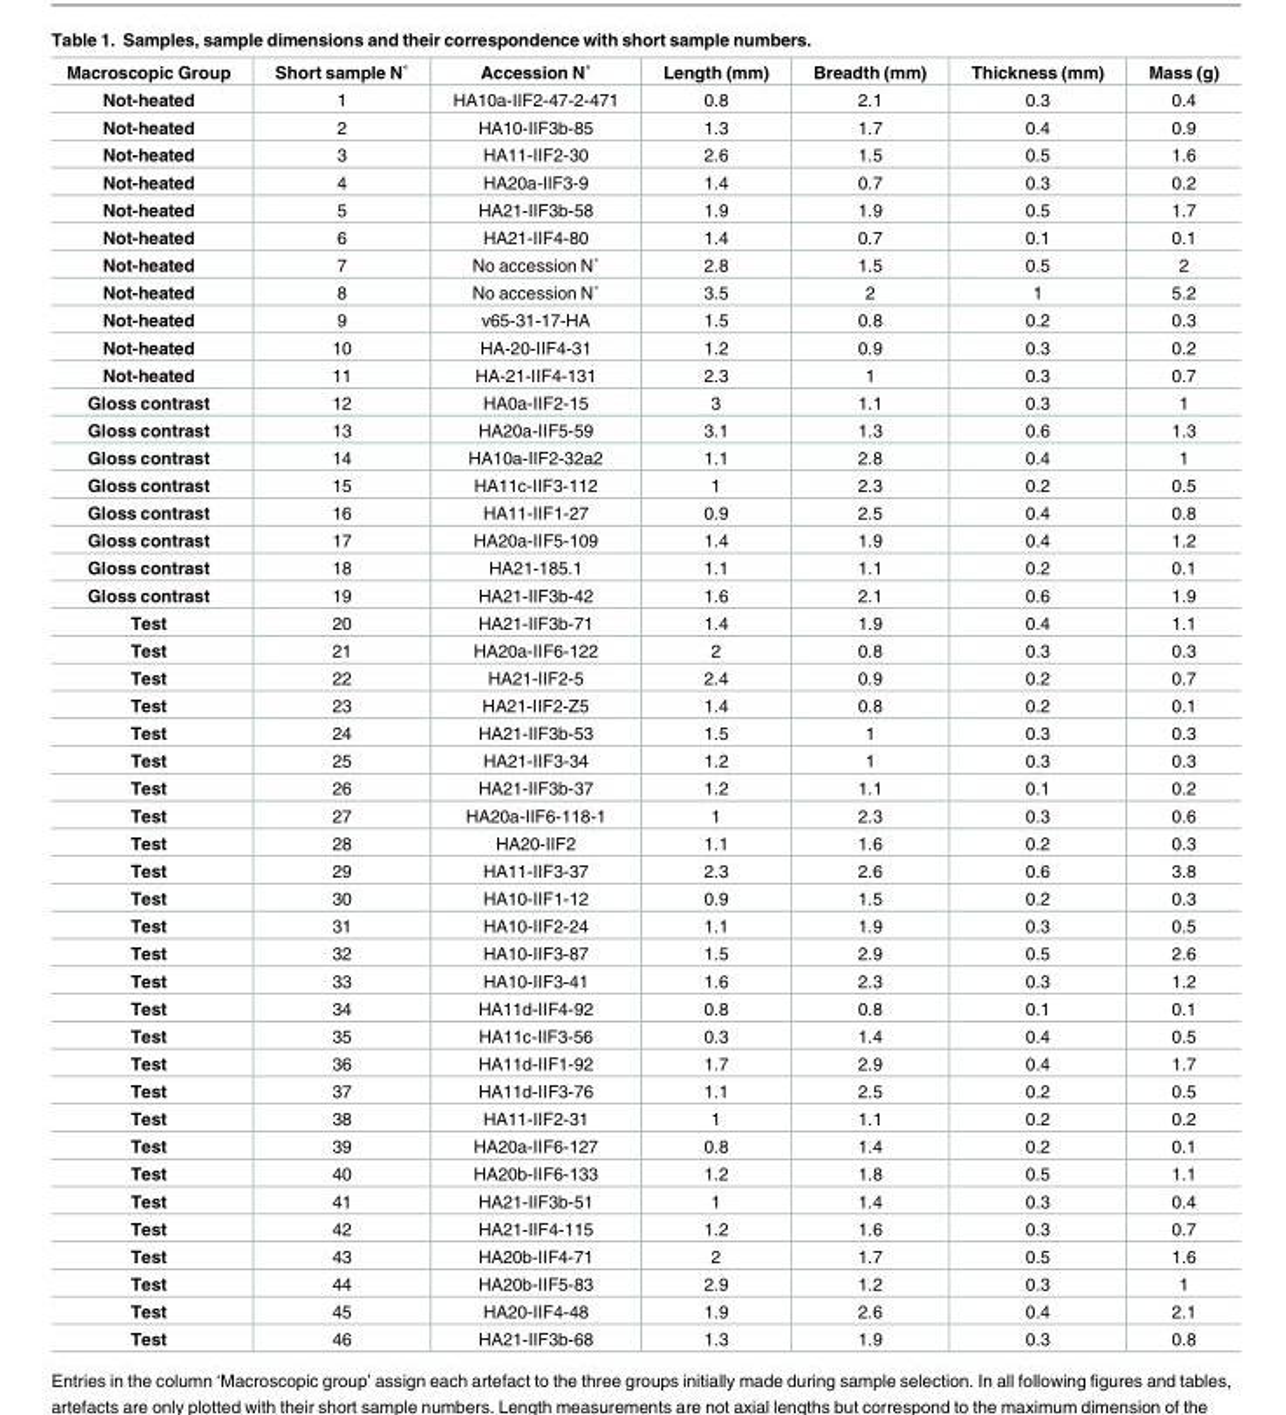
<table><thead><tr><td>Macroscopic Group</td><td>Short sample N˚</td><td>Accession N˚</td><td>Length (mm)</td><td>Breadth (mm)</td><td>Thickness (mm)</td><td>Mass (g)</td></tr></thead><tbody><tr><td>Not-heated</td><td>1</td><td>HA10a-IIF2-47-2-471</td><td>0.8</td><td>2.1</td><td>0.3</td><td>0.4</td></tr><tr><td>Not-heated</td><td>2</td><td>HA10-IIF3b-85</td><td>1.3</td><td>1.7</td><td>0.4</td><td>0.9</td></tr><tr><td>Not-heated</td><td>3</td><td>HA11-IIF2-30</td><td>2.6</td><td>1.5</td><td>0.5</td><td>1.6</td></tr><tr><td>Not-heated</td><td>4</td><td>HA20a-IIF3-9</td><td>1.4</td><td>0.7</td><td>0.3</td><td>0.2</td></tr><tr><td>Not-heated</td><td>5</td><td>HA21-IIF3b-58</td><td>1.9</td><td>1.9</td><td>0.5</td><td>1.7</td></tr><tr><td>Not-heated</td><td>6</td><td>HA21-IIF4-80</td><td>1.4</td><td>0.7</td><td>0.1</td><td>0.1</td></tr><tr><td>Not-heated</td><td>7</td><td>No accession N˚</td><td>2.8</td><td>1.5</td><td>0.5</td><td>2</td></tr><tr><td>Not-heated</td><td>8</td><td>No accession N˚</td><td>3.5</td><td>2</td><td>1</td><td>5.2</td></tr><tr><td>Not-heated</td><td>9</td><td>v65-31-17-HA</td><td>1.5</td><td>0.8</td><td>0.2</td><td>0.3</td></tr><tr><td>Not-heated</td><td>10</td><td>HA-20-IIF4-31</td><td>1.2</td><td>0.9</td><td>0.3</td><td>0.2</td></tr><tr><td>Not-heated</td><td>11</td><td>HA-21-IIF4-131</td><td>2.3</td><td>1</td><td>0.3</td><td>0.7</td></tr><tr><td>Gloss contrast</td><td>12</td><td>HA0a-IIF2-15</td><td>3</td><td>1.1</td><td>0.3</td><td>1</td></tr><tr><td>Gloss contrast</td><td>13</td><td>HA20a-IIF5-59</td><td>3.1</td><td>1.3</td><td>0.6</td><td>1.3</td></tr><tr><td>Gloss contrast</td><td>14</td><td>HA10a-IIF2-32a2</td><td>1.1</td><td>2.8</td><td>0.4</td><td>1</td></tr><tr><td>Gloss contrast</td><td>15</td><td>HA11c-IIF3-112</td><td>1</td><td>2.3</td><td>0.2</td><td>0.5</td></tr><tr><td>Gloss contrast</td><td>16</td><td>HA11-IIF1-27</td><td>0.9</td><td>2.5</td><td>0.4</td><td>0.8</td></tr><tr><td>Gloss contrast</td><td>17</td><td>HA20a-IIF5-109</td><td>1.4</td><td>1.9</td><td>0.4</td><td>1.2</td></tr><tr><td>Gloss contrast</td><td>18</td><td>HA21-185.1</td><td>1.1</td><td>1.1</td><td>0.2</td><td>0.1</td></tr><tr><td>Gloss contrast</td><td>19</td><td>HA21-IIF3b-42</td><td>1.6</td><td>2.1</td><td>0.6</td><td>1.9</td></tr><tr><td>Test</td><td>20</td><td>HA21-IIF3b-71</td><td>1.4</td><td>1.9</td><td>0.4</td><td>1.1</td></tr><tr><td>Test</td><td>21</td><td>HA20a-IIF6-122</td><td>2</td><td>0.8</td><td>0.3</td><td>0.3</td></tr><tr><td>Test</td><td>22</td><td>HA21-IIF2-5</td><td>2.4</td><td>0.9</td><td>0.2</td><td>0.7</td></tr><tr><td>Test</td><td>23</td><td>HA21-IIF2-Z5</td><td>1.4</td><td>0.8</td><td>0.2</td><td>0.1</td></tr><tr><td>Test</td><td>24</td><td>HA21-IIF3b-53</td><td>1.5</td><td>1</td><td>0.3</td><td>0.3</td></tr><tr><td>Test</td><td>25</td><td>HA21-IIF3-34</td><td>1.2</td><td>1</td><td>0.3</td><td>0.3</td></tr><tr><td>Test</td><td>26</td><td>HA21-IIF3b-37</td><td>1.2</td><td>1.1</td><td>0.1</td><td>0.2</td></tr><tr><td>Test</td><td>27</td><td>HA20a-IIF6-118-1</td><td>1</td><td>2.3</td><td>0.3</td><td>0.6</td></tr><tr><td>Test</td><td>28</td><td>HA20-IIF2</td><td>1.1</td><td>1.6</td><td>0.2</td><td>0.3</td></tr><tr><td>Test</td><td>29</td><td>HA11-IIF3-37</td><td>2.3</td><td>2.6</td><td>0.6</td><td>3.8</td></tr><tr><td>Test</td><td>30</td><td>HA10-IIF1-12</td><td>0.9</td><td>1.5</td><td>0.2</td><td>0.3</td></tr><tr><td>Test</td><td>31</td><td>HA10-IIF2-24</td><td>1.1</td><td>1.9</td><td>0.3</td><td>0.5</td></tr><tr><td>Test</td><td>32</td><td>HA10-IIF3-87</td><td>1.5</td><td>2.9</td><td>0.5</td><td>2.6</td></tr><tr><td>Test</td><td>33</td><td>HA10-IIF3-41</td><td>1.6</td><td>2.3</td><td>0.3</td><td>1.2</td></tr><tr><td>Test</td><td>34</td><td>HA11d-IIF4-92</td><td>0.8</td><td>0.8</td><td>0.1</td><td>0.1</td></tr><tr><td>Test</td><td>35</td><td>HA11c-IIF3-56</td><td>0.3</td><td>1.4</td><td>0.4</td><td>0.5</td></tr><tr><td>Test</td><td>36</td><td>HA11d-IIF1-92</td><td>1.7</td><td>2.9</td><td>0.4</td><td>1.7</td></tr><tr><td>Test</td><td>37</td><td>HA11d-IIF3-76</td><td>1.1</td><td>2.5</td><td>0.2</td><td>0.5</td></tr><tr><td>Test</td><td>38</td><td>HA11-IIF2-31</td><td>1</td><td>1.1</td><td>0.2</td><td>0.2</td></tr><tr><td>Test</td><td>39</td><td>HA20a-IIF6-127</td><td>0.8</td><td>1.4</td><td>0.2</td><td>0.1</td></tr><tr><td>Test</td><td>40</td><td>HA20b-IIF6-133</td><td>1.2</td><td>1.8</td><td>0.5</td><td>1.1</td></tr><tr><td>Test</td><td>41</td><td>HA21-IIF3b-51</td><td>1</td><td>1.4</td><td>0.3</td><td>0.4</td></tr><tr><td>Test</td><td>42</td><td>HA21-IIF4-115</td><td>1.2</td><td>1.6</td><td>0.3</td><td>0.7</td></tr><tr><td>Test</td><td>43</td><td>HA20b-IIF4-71</td><td>2</td><td>1.7</td><td>0.5</td><td>1.6</td></tr><tr><td>Test</td><td>44</td><td>HA20b-IIF5-83</td><td>2.9</td><td>1.2</td><td>0.3</td><td>1</td></tr><tr><td>Test</td><td>45</td><td>HA20-IIF4-48</td><td>1.9</td><td>2.6</td><td>0.4</td><td>2.1</td></tr><tr><td>Test</td><td>46</td><td>HA21-IIF3b-68</td><td>1.3</td><td>1.9</td><td>0.3</td><td>0.8</td></tr></tbody></table>